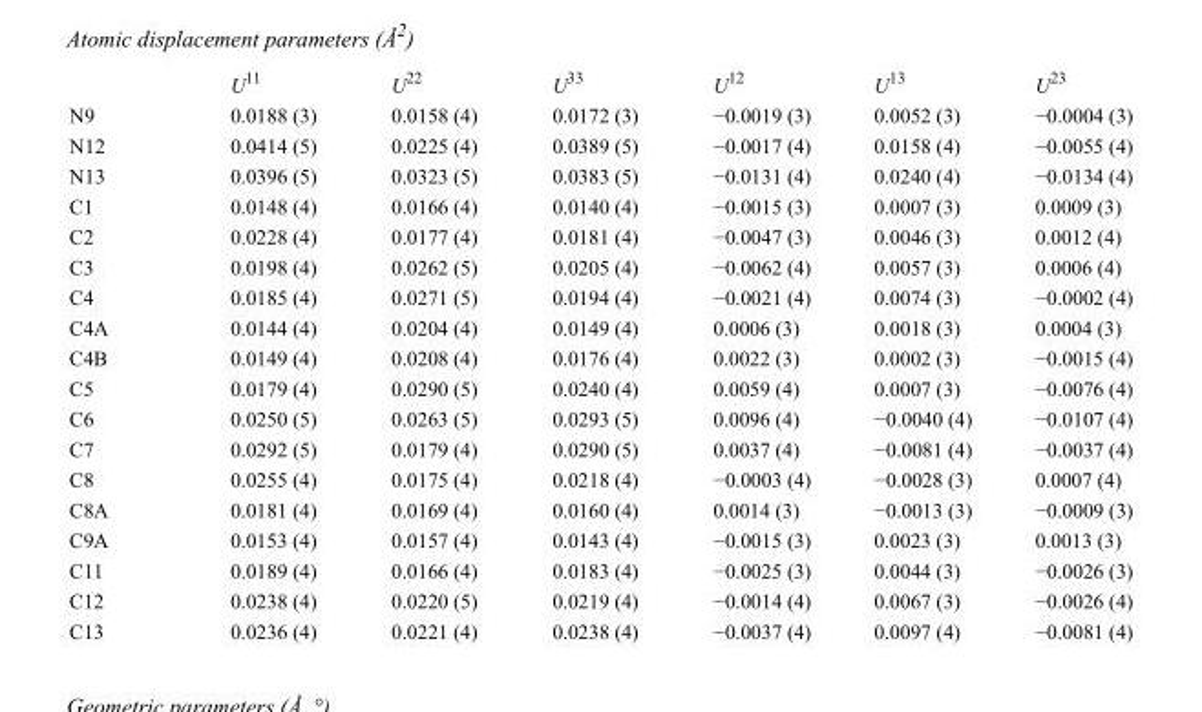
<table><thead><tr><td></td><td>U<sup>11</sup></td><td>U<sup>22</sup></td><td>U<sup>33</sup></td><td>U<sup>12</sup></td><td>U<sup>13</sup></td><td>U<sup>23</sup></td></tr></thead><tbody><tr><td>N9</td><td>0.0188 (3)</td><td>0.0158 (4)</td><td>0.0172 (3)</td><td>−0.0019 (3)</td><td>0.0052 (3)</td><td>−0.0004 (3)</td></tr><tr><td>N12</td><td>0.0414 (5)</td><td>0.0225 (4)</td><td>0.0389 (5)</td><td>−0.0017 (4)</td><td>0.0158 (4)</td><td>−0.0055 (4)</td></tr><tr><td>N13</td><td>0.0396 (5)</td><td>0.0323 (5)</td><td>0.0383 (5)</td><td>−0.0131 (4)</td><td>0.0240 (4)</td><td>−0.0134 (4)</td></tr><tr><td>C1</td><td>0.0148 (4)</td><td>0.0166 (4)</td><td>0.0140 (4)</td><td>−0.0015 (3)</td><td>0.0007 (3)</td><td>0.0009 (3)</td></tr><tr><td>C2</td><td>0.0228 (4)</td><td>0.0177 (4)</td><td>0.0181 (4)</td><td>−0.0047 (3)</td><td>0.0046 (3)</td><td>0.0012 (4)</td></tr><tr><td>C3</td><td>0.0198 (4)</td><td>0.0262 (5)</td><td>0.0205 (4)</td><td>−0.0062 (4)</td><td>0.0057 (3)</td><td>0.0006 (4)</td></tr><tr><td>C4</td><td>0.0185 (4)</td><td>0.0271 (5)</td><td>0.0194 (4)</td><td>−0.0021 (4)</td><td>0.0074 (3)</td><td>−0.0002 (4)</td></tr><tr><td>C4A</td><td>0.0144 (4)</td><td>0.0204 (4)</td><td>0.0149 (4)</td><td>0.0006 (3)</td><td>0.0018 (3)</td><td>0.0004 (3)</td></tr><tr><td>C4B</td><td>0.0149 (4)</td><td>0.0208 (4)</td><td>0.0176 (4)</td><td>0.0022 (3)</td><td>0.0002 (3)</td><td>−0.0015 (4)</td></tr><tr><td>C5</td><td>0.0179 (4)</td><td>0.0290 (5)</td><td>0.0240 (4)</td><td>0.0059 (4)</td><td>0.0007 (3)</td><td>−0.0076 (4)</td></tr><tr><td>C6</td><td>0.0250 (5)</td><td>0.0263 (5)</td><td>0.0293 (5)</td><td>0.0096 (4)</td><td>−0.0040 (4)</td><td>−0.0107 (4)</td></tr><tr><td>C7</td><td>0.0292 (5)</td><td>0.0179 (4)</td><td>0.0290 (5)</td><td>0.0037 (4)</td><td>−0.0081 (4)</td><td>−0.0037 (4)</td></tr><tr><td>C8</td><td>0.0255 (4)</td><td>0.0175 (4)</td><td>0.0218 (4)</td><td>−0.0003 (4)</td><td>−0.0028 (3)</td><td>0.0007 (4)</td></tr><tr><td>C8A</td><td>0.0181 (4)</td><td>0.0169 (4)</td><td>0.0160 (4)</td><td>0.0014 (3)</td><td>−0.0013 (3)</td><td>−0.0009 (3)</td></tr><tr><td>C9A</td><td>0.0153 (4)</td><td>0.0157 (4)</td><td>0.0143 (4)</td><td>−0.0015 (3)</td><td>0.0023 (3)</td><td>0.0013 (3)</td></tr><tr><td>C11</td><td>0.0189 (4)</td><td>0.0166 (4)</td><td>0.0183 (4)</td><td>−0.0025 (3)</td><td>0.0044 (3)</td><td>−0.0026 (3)</td></tr><tr><td>C12</td><td>0.0238 (4)</td><td>0.0220 (5)</td><td>0.0219 (4)</td><td>−0.0014 (4)</td><td>0.0067 (3)</td><td>−0.0026 (4)</td></tr><tr><td>C13</td><td>0.0236 (4)</td><td>0.0221 (4)</td><td>0.0238 (4)</td><td>−0.0037 (4)</td><td>0.0097 (4)</td><td>−0.0081 (4)</td></tr></tbody></table>